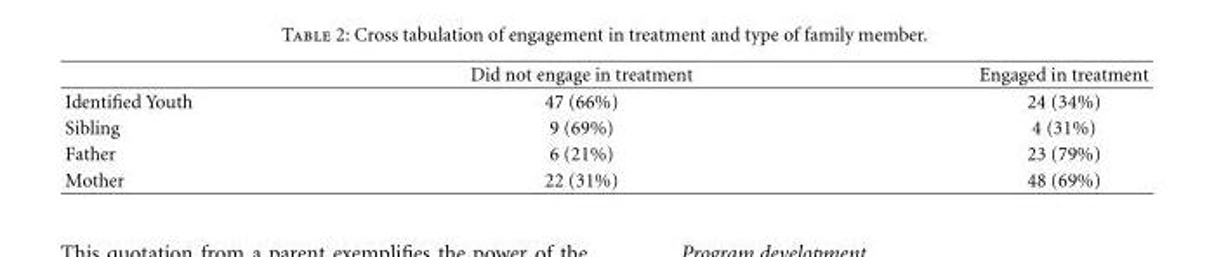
<table><thead><tr><td></td><td>Did not engage in treatment</td><td>Engaged in treatment</td></tr></thead><tbody><tr><td>Identified Youth</td><td>47 (66%)</td><td>24 (34%)</td></tr><tr><td>Sibling</td><td>9 (69%)</td><td>4 (31%)</td></tr><tr><td>Father</td><td>6 (21%)</td><td>23 (79%)</td></tr><tr><td>Mother</td><td>22 (31%)</td><td>48 (69%)</td></tr></tbody></table>